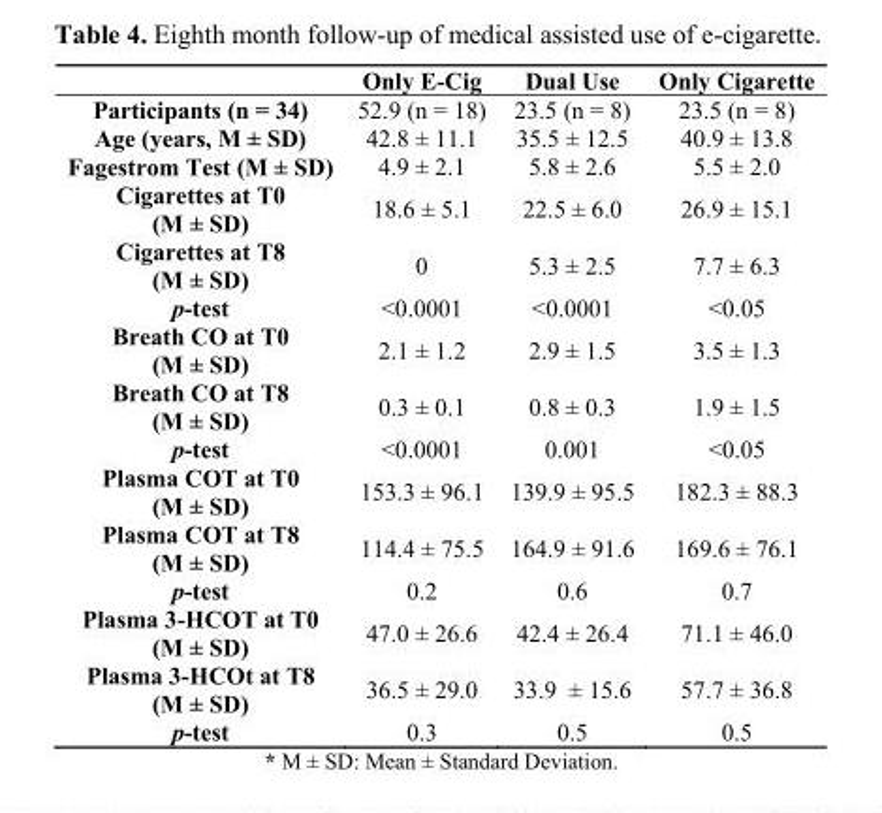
<table><thead><tr><td></td><td>Only E-Cig</td><td>Dual Use</td><td>Only Cigarette</td></tr></thead><tbody><tr><td>Participants (n = 34)</td><td>52.9 (n = 18)</td><td>23.5 (n = 8)</td><td>23.5 (n = 8)</td></tr><tr><td>Age (years, M ± SD)</td><td>42.8 ± 11.1</td><td>35.5 ± 12.5</td><td>40.9 ± 13.8</td></tr><tr><td>Fagestrom Test (M ± SD)</td><td>4.9 ± 2.1</td><td>5.8 ± 2.6</td><td>5.5 ± 2.0</td></tr><tr><td>Cigarettes at T0 (M ± SD)</td><td>18.6 ± 5.1</td><td>22.5 ± 6.0</td><td>26.9 ± 15.1</td></tr><tr><td>Cigarettes at T8 (M ± SD)</td><td>0</td><td>5.3 ± 2.5</td><td>7.7 ± 6.3</td></tr><tr><td>p-test</td><td>&lt;0.0001</td><td>&lt;0.0001</td><td>&lt;0.05</td></tr><tr><td>Breath CO at T0 (M ± SD)</td><td>2.1 ± 1.2</td><td>2.9 ± 1.5</td><td>3.5 ± 1.3</td></tr><tr><td>Breath CO at T8 (M ± SD)</td><td>0.3 ± 0.1</td><td>0.8 ± 0.3</td><td>1.9 ± 1.5</td></tr><tr><td>p-test</td><td>&lt;0.0001</td><td>0.001</td><td>&lt;0.05</td></tr><tr><td>Plasma COT at T0 (M ± SD)</td><td>153.3 ± 96.1</td><td>139.9 ± 95.5</td><td>182.3 ± 88.3</td></tr><tr><td>Plasma COT at T8 (M ± SD)</td><td>114.4 ± 75.5</td><td>164.9 ± 91.6</td><td>169.6 ± 76.1</td></tr><tr><td>p-test</td><td>0.2</td><td>0.6</td><td>0.7</td></tr><tr><td>Plasma 3-HCOT at T0 (M ± SD)</td><td>47.0 ± 26.6</td><td>42.4 ± 26.4</td><td>71.1 ± 46.0</td></tr><tr><td>Plasma 3-HCOt at T8 (M ± SD)</td><td>36.5 ± 29.0</td><td>33.9 ± 15.6</td><td>57.7 ± 36.8</td></tr><tr><td>p-test</td><td>0.3</td><td>0.5</td><td>0.5</td></tr></tbody></table>